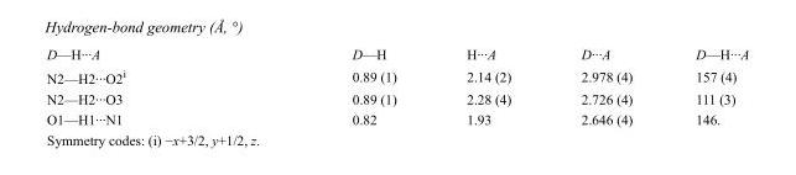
<table><tbody><tr><td>D—H···A</td><td>D—H</td><td>H···A</td><td>D···A</td><td>D—H···A</td></tr><tr><td>N2—H2···O2<sup>i</sup></td><td>0.89 (1)</td><td>2.14 (2)</td><td>2.978 (4)</td><td>157 (4)</td></tr><tr><td>N2—H2···O3</td><td>0.89 (1)</td><td>2.28 (4)</td><td>2.726 (4)</td><td>111 (3)</td></tr><tr><td>O1—H1···N1</td><td>0.82</td><td>1.93</td><td>2.646 (4)</td><td>146.</td></tr></tbody></table>